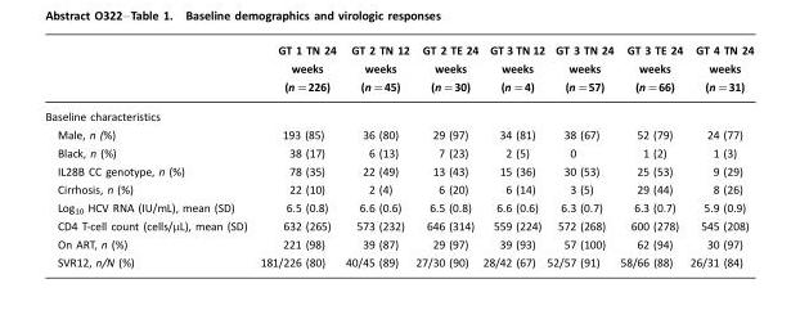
<table><thead><tr><td></td><td>GT 1 TN 24 weeks (n=226)</td><td>GT 2 TN 12 weeks (n=45)</td><td>GT 2 TE 24 weeks (n=30)</td><td>GT 3 TN 12 weeks (n=4)</td><td>GT 3 TN 24 weeks (n=57)</td><td>GT 3 TE 24 weeks (n=66)</td><td>GT 4 TN 24 weeks (n=31)</td></tr></thead><tbody><tr><td colspan="8">Baseline characteristics</td></tr><tr><td>Male, n (%)</td><td>193 (85)</td><td>36 (80)</td><td>29 (97)</td><td>34 (81)</td><td>38 (67)</td><td>52 (79)</td><td>24 (77)</td></tr><tr><td>Black, n (%)</td><td>38 (17)</td><td>6 (13)</td><td>7 (23)</td><td>2 (5)</td><td>0</td><td>1 (2)</td><td>1 (3)</td></tr><tr><td>IL28B CC genotype, n (%)</td><td>78 (35)</td><td>22 (49)</td><td>13 (43)</td><td>15 (36)</td><td>30 (53)</td><td>25 (53)</td><td>9 (29)</td></tr><tr><td>Cirrhosis, n (%)</td><td>22 (10)</td><td>2 (4)</td><td>6 (20)</td><td>6 (14)</td><td>3 (5)</td><td>29 (44)</td><td>8 (26)</td></tr><tr><td>Log10 HCV RNA (IU/mL), mean (SD)</td><td>6.5 (0.8)</td><td>6.6 (0.6)</td><td>6.5 (0.8)</td><td>6.6 (0.6)</td><td>6.3 (0.7)</td><td>6.3 (0.7)</td><td>5.9 (0.9)</td></tr><tr><td>CD4 T-cell count (cells/µL), mean (SD)</td><td>632 (265)</td><td>573 (232)</td><td>646 (314)</td><td>559 (224)</td><td>572 (268)</td><td>600 (278)</td><td>545 (208)</td></tr><tr><td>On ART, n (%)</td><td>221 (98)</td><td>39 (87)</td><td>29 (97)</td><td>39 (93)</td><td>57 (100)</td><td>62 (94)</td><td>30 (97)</td></tr><tr><td>SVR12, n/N (%)</td><td>181/226 (80)</td><td>40/45 (89)</td><td>27/30 (90)</td><td>28/42 (67)</td><td>52/57 (91)</td><td>58/66 (88)</td><td>26/31 (84)</td></tr></tbody></table>